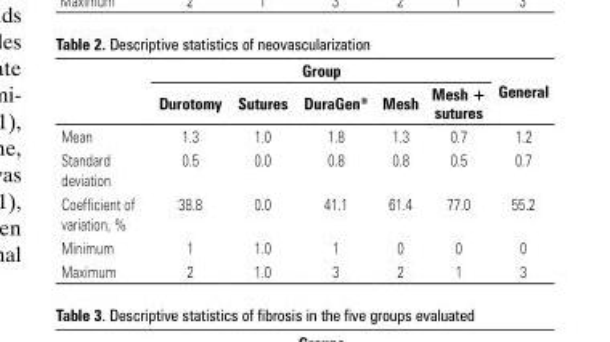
<table><thead><tr><td rowspan="2"></td><td colspan="5">Group</td><td rowspan="2">General</td></tr><tr><td>Durotomy</td><td>Sutures</td><td>DuraGen<sup>®</sup></td><td>Mesh</td><td>Mesh + sutures</td></tr></thead><tbody><tr><td>Mean</td><td>1.3</td><td>1.0</td><td>1.8</td><td>1.3</td><td>0.7</td><td>1.2</td></tr><tr><td>Standard deviation</td><td>0.5</td><td>0.0</td><td>0.8</td><td>0.8</td><td>0.5</td><td>0.7</td></tr><tr><td>Coefficient of variation, %</td><td>38.8</td><td>0.0</td><td>41.1</td><td>61.4</td><td>77.0</td><td>55.2</td></tr><tr><td>Minimum</td><td>1</td><td>1.0</td><td>1</td><td>0</td><td>0</td><td>0</td></tr><tr><td>Maximum</td><td>2</td><td>1.0</td><td>3</td><td>2</td><td>1</td><td>3</td></tr></tbody></table>